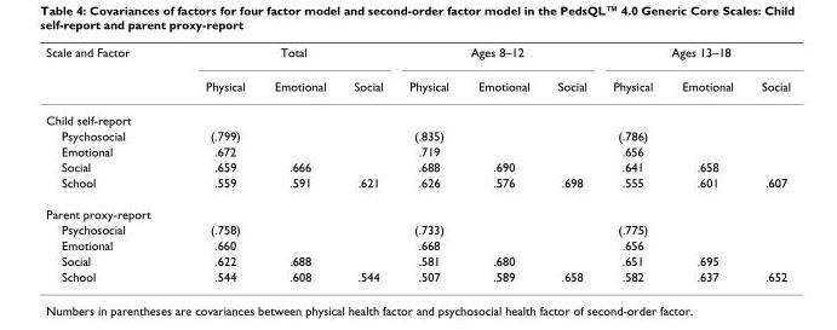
<table><thead><tr><td rowspan="2">Scale and Factor</td><td colspan="3">Total</td><td colspan="3">Ages 8–12</td><td colspan="3">Ages 13–18</td></tr><tr><td>Physical</td><td>Emotional</td><td>Social</td><td>Physical</td><td>Emotional</td><td>Social</td><td>Physical</td><td>Emotional</td><td>Social</td></tr></thead><tbody><tr><td colspan="10">Child self-report</td></tr><tr><td>Psychosocial</td><td>(.799)</td><td></td><td></td><td>(.835)</td><td></td><td></td><td>(.786)</td><td></td><td></td></tr><tr><td>Emotional</td><td>.672</td><td></td><td></td><td>.719</td><td></td><td></td><td>.656</td><td></td><td></td></tr><tr><td>Social</td><td>.659</td><td>.666</td><td></td><td>.688</td><td>.690</td><td></td><td>.641</td><td>.658</td><td></td></tr><tr><td>School</td><td>.559</td><td>.591</td><td>.621</td><td>.626</td><td>.576</td><td>.698</td><td>.555</td><td>.601</td><td>.607</td></tr><tr><td colspan="10">Parent proxy-report</td></tr><tr><td>Psychosocial</td><td>(.758)</td><td></td><td></td><td>(.733)</td><td></td><td></td><td>(.775)</td><td></td><td></td></tr><tr><td>Emotional</td><td>.660</td><td></td><td></td><td>.668</td><td></td><td></td><td>.656</td><td></td><td></td></tr><tr><td>Social</td><td>.622</td><td>.688</td><td></td><td>.581</td><td>.680</td><td></td><td>.651</td><td>.695</td><td></td></tr><tr><td>School</td><td>.544</td><td>.608</td><td>.544</td><td>.507</td><td>.589</td><td>.658</td><td>.582</td><td>.637</td><td>.652</td></tr></tbody></table>